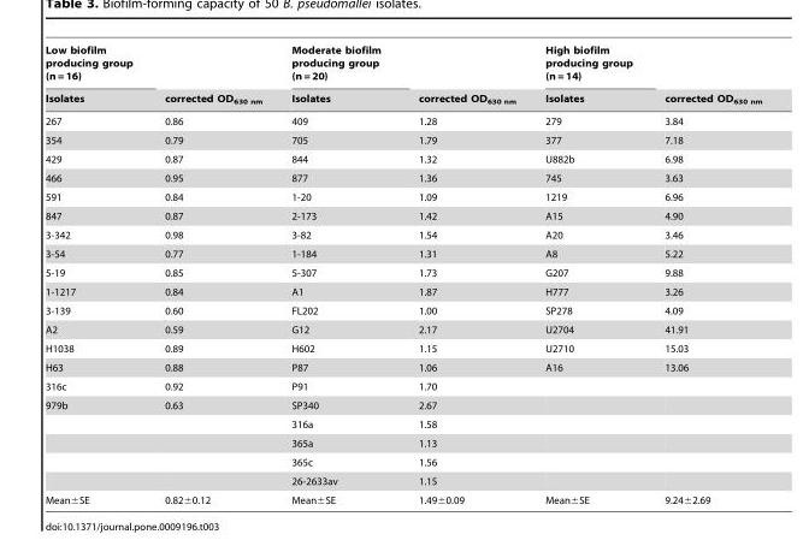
<table><thead><tr><td rowspan="2">Low biofilm producing group (n = 16) Isolates</td><td rowspan="2">corrected OD<sub>630 nm</sub></td><td rowspan="2">Moderate biofilm producing group (n = 20) Isolates</td><td rowspan="2">corrected OD<sub>630 nm</sub></td><td rowspan="2">High biofilm producing group (n = 14) Isolates</td><td rowspan="2">corrected OD<sub>630 nm</sub></td></tr><tr></tr></thead><tbody><tr><td>267</td><td>0.86</td><td>409</td><td>1.28</td><td>279</td><td>3.84</td></tr><tr><td>354</td><td>0.79</td><td>705</td><td>1.79</td><td>377</td><td>7.18</td></tr><tr><td>429</td><td>0.87</td><td>844</td><td>1.32</td><td>U882b</td><td>6.98</td></tr><tr><td>466</td><td>0.95</td><td>877</td><td>1.36</td><td>745</td><td>3.63</td></tr><tr><td>591</td><td>0.84</td><td>1-20</td><td>1.09</td><td>1219</td><td>6.96</td></tr><tr><td>847</td><td>0.87</td><td>2-173</td><td>1.42</td><td>A15</td><td>4.90</td></tr><tr><td>3-342</td><td>0.98</td><td>3-82</td><td>1.54</td><td>A20</td><td>3.46</td></tr><tr><td>3-54</td><td>0.77</td><td>1-184</td><td>1.31</td><td>A8</td><td>5.22</td></tr><tr><td>5-19</td><td>0.85</td><td>5-307</td><td>1.73</td><td>G207</td><td>9.88</td></tr><tr><td>1-1217</td><td>0.84</td><td>A1</td><td>1.87</td><td>H777</td><td>3.26</td></tr><tr><td>3-139</td><td>0.60</td><td>FL202</td><td>1.00</td><td>SP278</td><td>4.09</td></tr><tr><td>A2</td><td>0.59</td><td>G12</td><td>2.17</td><td>U2704</td><td>41.91</td></tr><tr><td>H1038</td><td>0.89</td><td>H602</td><td>1.15</td><td>U2710</td><td>15.03</td></tr><tr><td>H63</td><td>0.88</td><td>P87</td><td>1.06</td><td>A16</td><td>13.06</td></tr><tr><td>316c</td><td>0.92</td><td>P91</td><td>1.70</td><td></td><td></td></tr><tr><td rowspan="5">979b</td><td>0.63</td><td>SP340</td><td>2.67</td><td></td><td></td></tr><tr><td></td><td>316a</td><td>1.58</td><td></td><td></td></tr><tr><td></td><td>365a</td><td>1.13</td><td></td><td></td></tr><tr><td></td><td>365c</td><td>1.56</td><td></td><td></td></tr><tr><td></td><td>26-2633av</td><td>1.15</td><td></td><td></td></tr><tr><td>Mean±SE</td><td>0.82±0.12</td><td>Mean±SE</td><td>1.49±0.09</td><td>Mean±SE</td><td>9.24±2.69</td></tr></tbody></table>